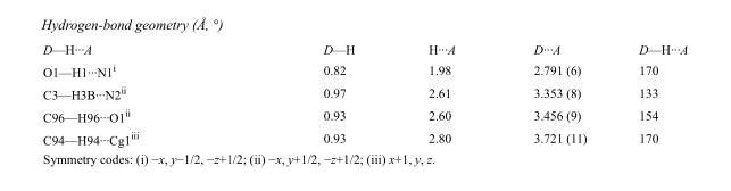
<table><tbody><tr><td>D—H···A</td><td>D—H</td><td>H···A</td><td>D···A</td><td>D—H···A</td></tr><tr><td>O1—H1···N1<sup>i</sup></td><td>0.82</td><td>1.98</td><td>2.791 (6)</td><td>170</td></tr><tr><td>C3—H3B···N2<sup>ii</sup></td><td>0.97</td><td>2.61</td><td>3.353 (8)</td><td>133</td></tr><tr><td>C96—H96···O1<sup>ii</sup></td><td>0.93</td><td>2.60</td><td>3.456 (9)</td><td>154</td></tr><tr><td>C94—H94···Cg1<sup>iii</sup></td><td>0.93</td><td>2.80</td><td>3.721 (11)</td><td>170</td></tr></tbody></table>